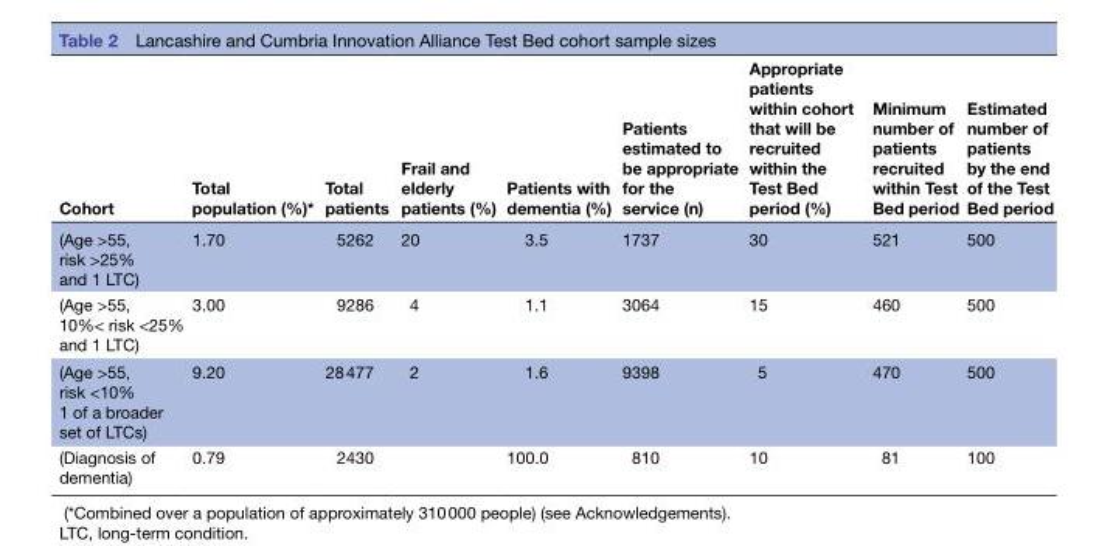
<table><thead><tr><td>Cohort</td><td>Total population (%)*</td><td>Total patients</td><td>Frail and elderly patients (%)</td><td>Patients with dementia (%)</td><td>Patients estimated to be appropriate for the service (n)</td><td>Appropriate patients within cohort that will be recruited within the Test Bed period (%)</td><td>Minimum number of patients recruited within Test Bed period</td><td>Estimated number of patients by the end of the Test Bed period</td></tr></thead><tbody><tr><td>(Age &gt;55, risk &gt;25% and 1 LTC)</td><td>1.70</td><td>5262</td><td>20</td><td>3.5</td><td>1737</td><td>30</td><td>521</td><td>500</td></tr><tr><td>(Age &gt;55, 10%&lt; risk &lt;25% and 1 LTC)</td><td>3.00</td><td>9286</td><td>4</td><td>1.1</td><td>3064</td><td>15</td><td>460</td><td>500</td></tr><tr><td>(Age &gt;55, risk &lt;10% 1 of a broader set of LTCs)</td><td>9.20</td><td>28 477</td><td>2</td><td>1.6</td><td>9398</td><td>5</td><td>470</td><td>500</td></tr><tr><td>(Diagnosis of dementia)</td><td>0.79</td><td>2430</td><td></td><td>100.0</td><td>810</td><td>10</td><td>81</td><td>100</td></tr></tbody></table>